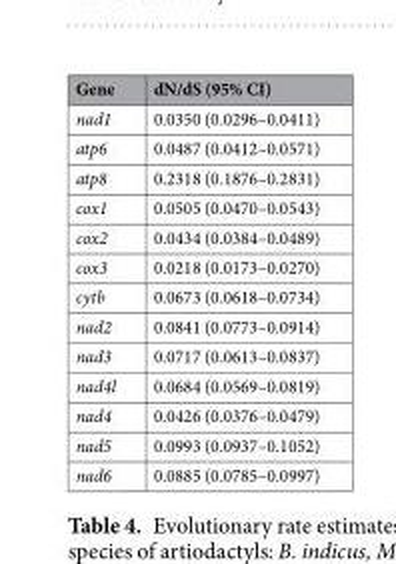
<table><thead><tr><td>Gene</td><td>dN/dS (95% CI)</td></tr></thead><tbody><tr><td>nad1</td><td>0.0350 (0.0296–0.0411)</td></tr><tr><td>atp6</td><td>0.0487 (0.0412–0.0571)</td></tr><tr><td>atp8</td><td>0.2318 (0.1876–0.2831)</td></tr><tr><td>cox1</td><td>0.0505 (0.0470–0.0543)</td></tr><tr><td>cox2</td><td>0.0434 (0.0384–0.0489)</td></tr><tr><td>cox3</td><td>0.0218 (0.0173–0.0270)</td></tr><tr><td>cytb</td><td>0.0673 (0.0618–0.0734)</td></tr><tr><td>nad2</td><td>0.0841 (0.0773–0.0914)</td></tr><tr><td>nad3</td><td>0.0717 (0.0613–0.0837)</td></tr><tr><td>nad4l</td><td>0.0684 (0.0569–0.0819)</td></tr><tr><td>nad4</td><td>0.0426 (0.0376–0.0479)</td></tr><tr><td>nad5</td><td>0.0993 (0.0937–0.1052)</td></tr><tr><td>nad6</td><td>0.0885 (0.0785–0.0997)</td></tr></tbody></table>